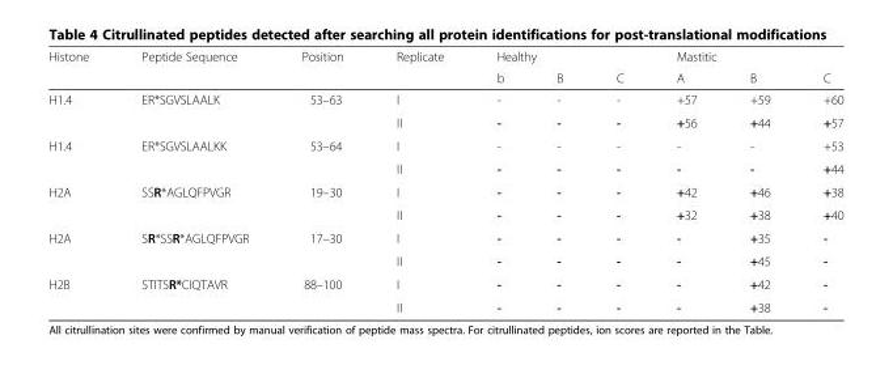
<table><thead><tr><td rowspan="2">Histone</td><td rowspan="2">Peptide Sequence</td><td rowspan="2">Position</td><td rowspan="2">Replicate</td><td colspan="3">Healthy</td><td colspan="3">Mastitic</td></tr><tr><td>b</td><td>B</td><td>C</td><td>A</td><td>B</td><td>C</td></tr></thead><tbody><tr><td rowspan="2">H1.4</td><td>ER*SGVSLAALK</td><td>53–63</td><td>I</td><td>-</td><td>-</td><td>-</td><td>+57</td><td>+59</td><td>+60</td></tr><tr><td></td><td></td><td>II</td><td>-</td><td>-</td><td>-</td><td>+56</td><td>+44</td><td>+57</td></tr><tr><td rowspan="2">H1.4</td><td>ER*SGVSLAALKK</td><td>53–64</td><td>I</td><td>-</td><td>-</td><td>-</td><td>-</td><td>-</td><td>+53</td></tr><tr><td></td><td></td><td>II</td><td>-</td><td>-</td><td>-</td><td>-</td><td>-</td><td>+44</td></tr><tr><td rowspan="2">H2A</td><td>SSR*AGLQFPVGR</td><td>19–30</td><td>I</td><td>-</td><td>-</td><td>-</td><td>+42</td><td>+46</td><td>+38</td></tr><tr><td></td><td></td><td>II</td><td>-</td><td>-</td><td>-</td><td>+32</td><td>+38</td><td>+40</td></tr><tr><td rowspan="2">H2A</td><td>SR*SSR*AGLQFPVGR</td><td>17–30</td><td>I</td><td>-</td><td>-</td><td>-</td><td>-</td><td>+35</td><td>-</td></tr><tr><td></td><td></td><td>II</td><td>-</td><td>-</td><td>-</td><td>-</td><td>+45</td><td>-</td></tr><tr><td rowspan="2">H2B</td><td>STITSR*CIQTAVR</td><td>88–100</td><td>I</td><td>-</td><td>-</td><td>-</td><td>-</td><td>+42</td><td>-</td></tr><tr><td></td><td></td><td>II</td><td>-</td><td>-</td><td>-</td><td>-</td><td>+38</td><td>-</td></tr></tbody></table>